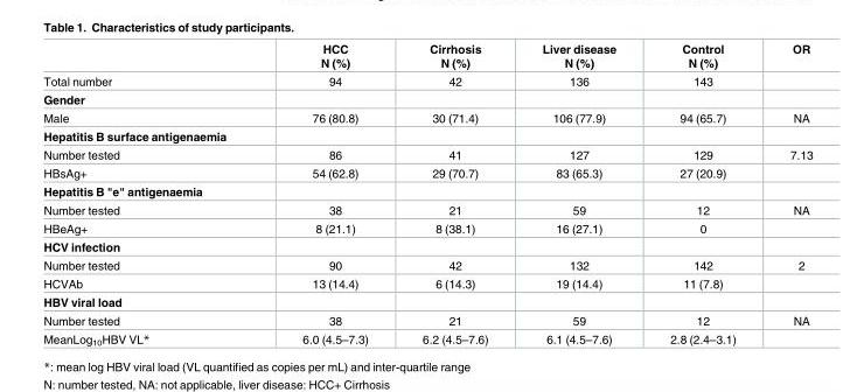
<table><thead><tr><td></td><td>HCC N (%)</td><td>Cirrhosis N (%)</td><td>Liver disease N (%)</td><td>Control N (%)</td><td>OR</td></tr></thead><tbody><tr><td>Total number</td><td>94</td><td>42</td><td>136</td><td>143</td><td></td></tr><tr><td colspan="6">Gender</td></tr><tr><td>Male</td><td>76 (80.8)</td><td>30 (71.4)</td><td>106 (77.9)</td><td>94 (65.7)</td><td>NA</td></tr><tr><td colspan="6">Hepatitis B surface antigenaemia</td></tr><tr><td>Number tested</td><td>86</td><td>41</td><td>127</td><td>129</td><td>7.13</td></tr><tr><td>HBsAg+</td><td>54 (62.8)</td><td>29 (70.7)</td><td>83 (65.3)</td><td>27 (20.9)</td><td></td></tr><tr><td colspan="6">Hepatitis B &quot;e&quot; antigenaemia</td></tr><tr><td>Number tested</td><td>38</td><td>21</td><td>59</td><td>12</td><td>NA</td></tr><tr><td>HBeAg+</td><td>8 (21.1)</td><td>8 (38.1)</td><td>16 (27.1)</td><td>0</td><td></td></tr><tr><td colspan="6">HCV infection</td></tr><tr><td>Number tested</td><td>90</td><td>42</td><td>132</td><td>142</td><td>2</td></tr><tr><td>HCVAb</td><td>13 (14.4)</td><td>6 (14.3)</td><td>19 (14.4)</td><td>11 (7.8)</td><td></td></tr><tr><td colspan="6">HBV viral load</td></tr><tr><td>Number tested</td><td>38</td><td>21</td><td>59</td><td>12</td><td>NA</td></tr><tr><td>MeanLog<sub>10</sub>HBV VL*</td><td>6.0 (4.5–7.3)</td><td>6.2 (4.5–7.6)</td><td>6.1 (4.5–7.6)</td><td>2.8 (2.4–3.1)</td><td></td></tr></tbody></table>